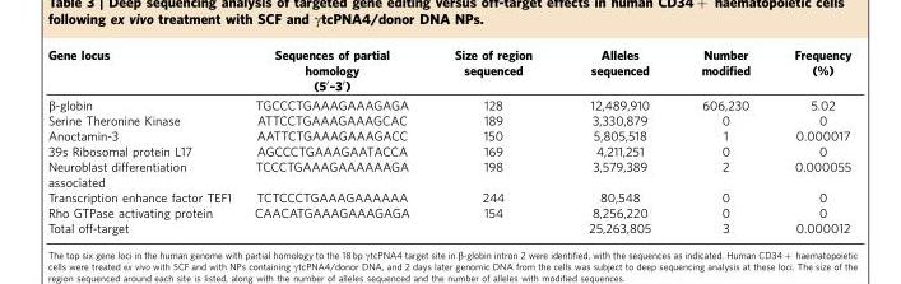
<table><thead><tr><td>Gene locus</td><td>Sequences of partial homology (5′–3′)</td><td>Size of region sequenced</td><td>Alleles sequenced</td><td>Number modified</td><td>Frequency (%)</td></tr></thead><tbody><tr><td>β-globin</td><td>TGCCCTGAAAGAAAGAGA</td><td>128</td><td>12,489,910</td><td>606,230</td><td>5.02</td></tr><tr><td>Serine Theronine Kinase</td><td>ATTCCTGAAAGAAAGCAC</td><td>189</td><td>3,330,879</td><td>0</td><td>0</td></tr><tr><td>Anoctamin-3</td><td>AATTCTGAAAGAAAGACC</td><td>150</td><td>5,805,518</td><td>1</td><td>0.000017</td></tr><tr><td>39s Ribosomal protein L17</td><td>AGCCCTGAAAGAATACCA</td><td>169</td><td>4,211,251</td><td>0</td><td>0</td></tr><tr><td>Neuroblast differentiation associated</td><td>TCCCTGAAAGAAAAAAGA</td><td>198</td><td>3,579,389</td><td>2</td><td>0.000055</td></tr><tr><td>Transcription enhance factor TEF1</td><td>TCTCCCTGAAAGAAAAAA</td><td>244</td><td>80,548</td><td>0</td><td>0</td></tr><tr><td>Rho GTPase activating protein</td><td>CAACATGAAAGAAAGAGA</td><td>154</td><td>8,256,220</td><td>0</td><td>0</td></tr><tr><td>Total off-target</td><td></td><td></td><td>25,263,805</td><td>3</td><td>0.000012</td></tr></tbody></table>